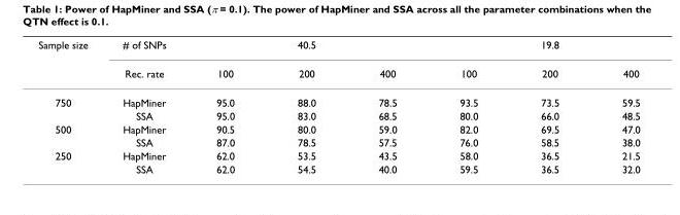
<table><thead><tr><td rowspan="2">Sample size</td><td rowspan="2"># of SNPs Rec. rate</td><td colspan="3">40.5</td><td colspan="3">19.8</td></tr><tr><td>100</td><td>200</td><td>400</td><td>100</td><td>200</td><td>400</td></tr></thead><tbody><tr><td rowspan="2">750</td><td>HapMiner</td><td>95.0</td><td>88.0</td><td>78.5</td><td>93.5</td><td>73.5</td><td>59.5</td></tr><tr><td>SSA</td><td>95.0</td><td>83.0</td><td>68.5</td><td>80.0</td><td>66.0</td><td>48.5</td></tr><tr><td rowspan="2">500</td><td>HapMiner</td><td>90.5</td><td>80.0</td><td>59.0</td><td>82.0</td><td>69.5</td><td>47.0</td></tr><tr><td>SSA</td><td>87.0</td><td>78.5</td><td>57.5</td><td>76.0</td><td>58.5</td><td>38.0</td></tr><tr><td rowspan="2">250</td><td>HapMiner</td><td>62.0</td><td>53.5</td><td>43.5</td><td>58.0</td><td>36.5</td><td>21.5</td></tr><tr><td>SSA</td><td>62.0</td><td>54.5</td><td>40.0</td><td>59.5</td><td>36.5</td><td>32.0</td></tr></tbody></table>